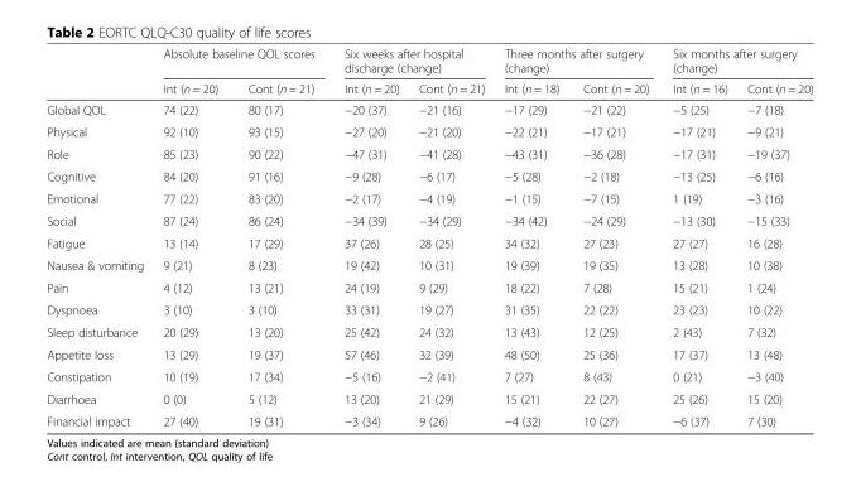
<table><thead><tr><td rowspan="2"></td><td colspan="2">Absolute baseline QOL scores</td><td colspan="2">Six weeks after hospital discharge (change)</td><td colspan="2">Three months after surgery (change)</td><td colspan="2">Six months after surgery (change)</td></tr><tr><td>Int (n = 20)</td><td>Cont (n = 21)</td><td>Int (n = 20)</td><td>Cont (n = 21)</td><td>Int (n = 18)</td><td>Cont (n = 20)</td><td>Int (n = 16)</td><td>Cont (n = 20)</td></tr></thead><tbody><tr><td>Global QOL</td><td>74 (22)</td><td>80 (17)</td><td>−20 (37)</td><td>−21 (16)</td><td>−17 (29)</td><td>−21 (22)</td><td>−5 (25)</td><td>−7 (18)</td></tr><tr><td>Physical</td><td>92 (10)</td><td>93 (15)</td><td>−27 (20)</td><td>−21 (20)</td><td>−22 (21)</td><td>−17 (21)</td><td>−17 (21)</td><td>−9 (21)</td></tr><tr><td>Role</td><td>85 (23)</td><td>90 (22)</td><td>−47 (31)</td><td>−41 (28)</td><td>−43 (31)</td><td>−36 (28)</td><td>−17 (31)</td><td>−19 (37)</td></tr><tr><td>Cognitive</td><td>84 (20)</td><td>91 (16)</td><td>−9 (28)</td><td>−6 (17)</td><td>−5 (28)</td><td>−2 (18)</td><td>−13 (25)</td><td>−6 (16)</td></tr><tr><td>Emotional</td><td>77 (22)</td><td>83 (20)</td><td>−2 (17)</td><td>−4 (19)</td><td>−1 (15)</td><td>−7 (15)</td><td>1 (19)</td><td>−3 (16)</td></tr><tr><td>Social</td><td>87 (24)</td><td>86 (24)</td><td>−34 (39)</td><td>−34 (29)</td><td>−34 (42)</td><td>−24 (29)</td><td>−13 (30)</td><td>−15 (33)</td></tr><tr><td>Fatigue</td><td>13 (14)</td><td>17 (29)</td><td>37 (26)</td><td>28 (25)</td><td>34 (32)</td><td>27 (23)</td><td>27 (27)</td><td>16 (28)</td></tr><tr><td>Nausea &amp; vomiting</td><td>9 (21)</td><td>8 (23)</td><td>19 (42)</td><td>10 (31)</td><td>19 (39)</td><td>19 (35)</td><td>13 (28)</td><td>10 (38)</td></tr><tr><td>Pain</td><td>4 (12)</td><td>13 (21)</td><td>24 (19)</td><td>9 (29)</td><td>18 (22)</td><td>7 (28)</td><td>15 (21)</td><td>1 (24)</td></tr><tr><td>Dyspnoea</td><td>3 (10)</td><td>3 (10)</td><td>33 (31)</td><td>19 (27)</td><td>31 (35)</td><td>22 (22)</td><td>23 (23)</td><td>10 (22)</td></tr><tr><td>Sleep disturbance</td><td>20 (29)</td><td>13 (20)</td><td>25 (42)</td><td>24 (32)</td><td>13 (43)</td><td>12 (25)</td><td>2 (43)</td><td>7 (32)</td></tr><tr><td>Appetite loss</td><td>13 (29)</td><td>19 (37)</td><td>57 (46)</td><td>32 (39)</td><td>48 (50)</td><td>25 (36)</td><td>17 (37)</td><td>13 (48)</td></tr><tr><td>Constipation</td><td>10 (19)</td><td>17 (34)</td><td>−5 (16)</td><td>−2 (41)</td><td>7 (27)</td><td>8 (43)</td><td>0 (21)</td><td>−3 (40)</td></tr><tr><td>Diarrhoea</td><td>0 (0)</td><td>5 (12)</td><td>13 (20)</td><td>21 (29)</td><td>15 (21)</td><td>22 (27)</td><td>25 (26)</td><td>15 (20)</td></tr><tr><td>Financial impact</td><td>27 (40)</td><td>19 (31)</td><td>−3 (34)</td><td>9 (26)</td><td>−4 (32)</td><td>10 (27)</td><td>−6 (37)</td><td>7 (30)</td></tr></tbody></table>